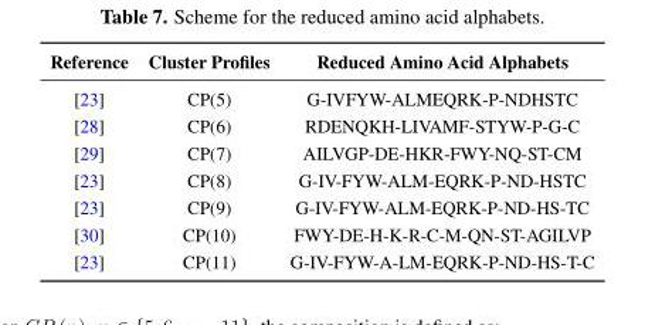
<table><thead><tr><td>Reference</td><td>Cluster Profiles</td><td>Reduced Amino Acid Alphabets</td></tr></thead><tbody><tr><td>[23]</td><td>CP(5)</td><td>G-IVFYW-ALMEQRK-P-NDHSTC</td></tr><tr><td>[28]</td><td>CP(6)</td><td>RDENQKH-LIVAMF-STYW-P-G-C</td></tr><tr><td>[29]</td><td>CP(7)</td><td>AILVGP-DE-HKR-FWY-NQ-ST-CM</td></tr><tr><td>[23]</td><td>CP(8)</td><td>G-IV-FYW-ALM-EQRK-P-ND-HSTC</td></tr><tr><td>[23]</td><td>CP(9)</td><td>G-IV-FYW-ALM-EQRK-P-ND-HS-TC</td></tr><tr><td>[30]</td><td>CP(10)</td><td>FWY-DE-H-K-R-C-M-QN-ST-AGILVP</td></tr><tr><td>[23]</td><td>CP(11)</td><td>G-IV-FYW-A-LM-EQRK-P-ND-HS-T-C</td></tr></tbody></table>